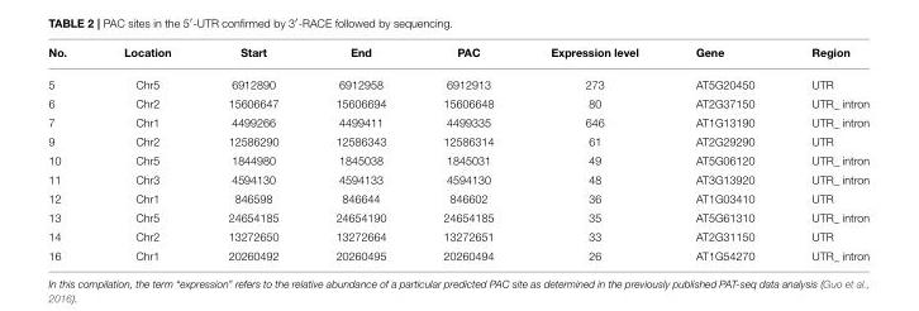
<table><thead><tr><td>No.</td><td>Location</td><td>Start</td><td>End</td><td>PAC</td><td>Expression level</td><td>Gene</td><td>Region</td></tr></thead><tbody><tr><td>5</td><td>Chr5</td><td>6912890</td><td>6912958</td><td>6912913</td><td>273</td><td>AT5G20450</td><td>UTR</td></tr><tr><td>6</td><td>Chr2</td><td>15606647</td><td>15606694</td><td>15606648</td><td>80</td><td>AT2G37150</td><td>UTR_ intron</td></tr><tr><td>7</td><td>Chr1</td><td>4499266</td><td>4499411</td><td>4499335</td><td>646</td><td>AT1G13190</td><td>UTR_ intron</td></tr><tr><td>9</td><td>Chr2</td><td>12586290</td><td>12586343</td><td>12586314</td><td>61</td><td>AT2G29290</td><td>UTR</td></tr><tr><td>10</td><td>Chr5</td><td>1844980</td><td>1845038</td><td>1845031</td><td>49</td><td>AT5G06120</td><td>UTR_ intron</td></tr><tr><td>11</td><td>Chr3</td><td>4594130</td><td>4594133</td><td>4594130</td><td>48</td><td>AT3G13920</td><td>UTR_ intron</td></tr><tr><td>12</td><td>Chr1</td><td>846598</td><td>846644</td><td>846602</td><td>36</td><td>AT1G03410</td><td>UTR</td></tr><tr><td>13</td><td>Chr5</td><td>24654185</td><td>24654190</td><td>24654185</td><td>35</td><td>AT5G61310</td><td>UTR_ intron</td></tr><tr><td>14</td><td>Chr2</td><td>13272650</td><td>13272664</td><td>13272651</td><td>33</td><td>AT2G31150</td><td>UTR</td></tr><tr><td>16</td><td>Chr1</td><td>20260492</td><td>20260495</td><td>20260494</td><td>26</td><td>AT1G54270</td><td>UTR_ intron</td></tr></tbody></table>